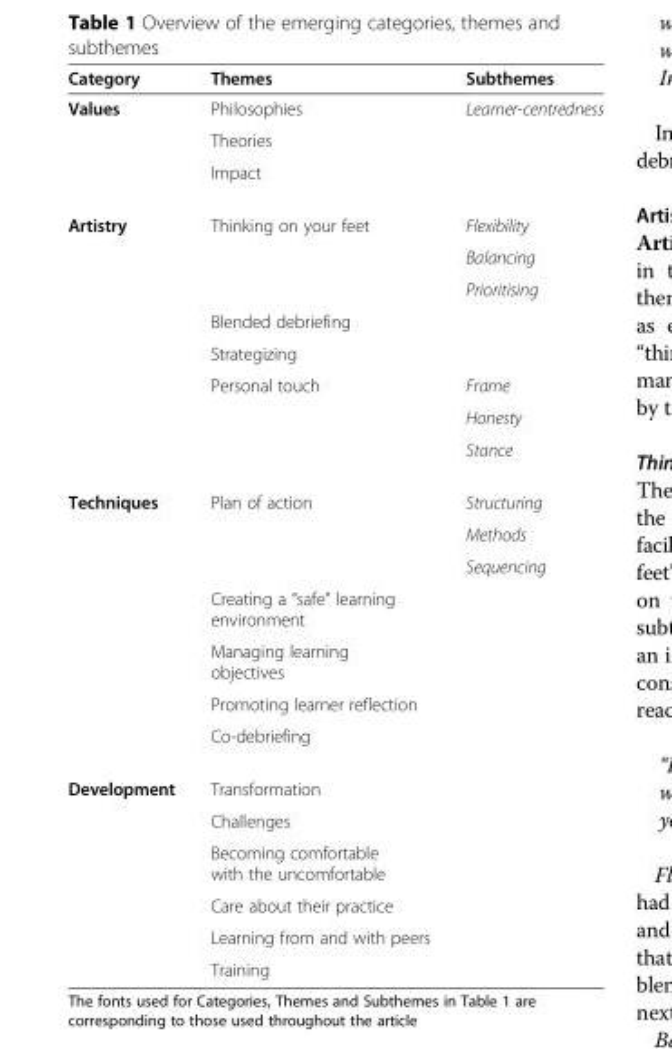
<table><thead><tr><td>Category</td><td>Themes</td><td>Subthemes</td></tr></thead><tbody><tr><td rowspan="3">Values</td><td>Philosophies</td><td>Learner-centredness</td></tr><tr><td>Theories</td><td></td></tr><tr><td>Impact</td><td></td></tr><tr><td rowspan="8">Artistry</td><td>Thinking on your feet</td><td>Flexibility</td></tr><tr><td></td><td>Balancing</td></tr><tr><td></td><td>Prioritising</td></tr><tr><td>Blended debriefing</td><td></td></tr><tr><td>Strategizing</td><td></td></tr><tr><td>Personal touch</td><td>Frame</td></tr><tr><td></td><td>Honesty</td></tr><tr><td></td><td>Stance</td></tr><tr><td rowspan="7">Techniques</td><td>Plan of action</td><td>Structuring</td></tr><tr><td></td><td>Methods</td></tr><tr><td></td><td>Sequencing</td></tr><tr><td>Creating a “safe” learning environment</td><td></td></tr><tr><td>Managing learning objectives</td><td></td></tr><tr><td>Promoting learner reflection</td><td></td></tr><tr><td>Co-debriefing</td><td></td></tr><tr><td rowspan="6">Development</td><td>Transformation</td><td></td></tr><tr><td>Challenges</td><td></td></tr><tr><td>Becoming comfortable with the uncomfortable</td><td></td></tr><tr><td>Care about their practice</td><td></td></tr><tr><td>Learning from and with peers</td><td></td></tr><tr><td>Training</td><td></td></tr></tbody></table>